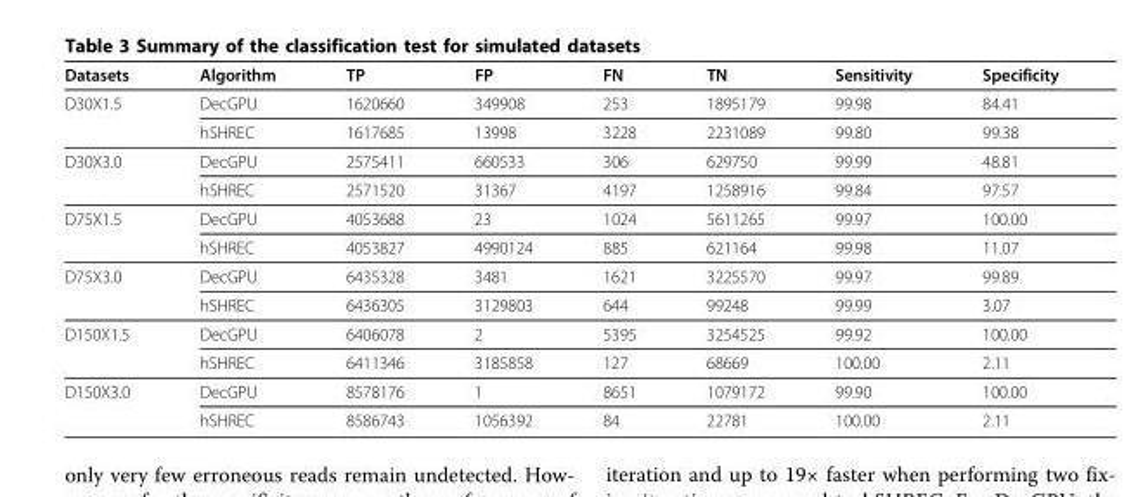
<table><thead><tr><td>Datasets</td><td>Algorithm</td><td>TP</td><td>FP</td><td>FN</td><td>TN</td><td>Sensitivity</td><td>Specificity</td></tr></thead><tbody><tr><td rowspan="2">D30X1.5</td><td>DecGPU</td><td>1620660</td><td>349908</td><td>253</td><td>1895179</td><td>99.98</td><td>84.41</td></tr><tr><td>hSHREC</td><td>1617685</td><td>13998</td><td>3228</td><td>2231089</td><td>99.80</td><td>99.38</td></tr><tr><td rowspan="2">D30X3.0</td><td>DecGPU</td><td>2575411</td><td>660533</td><td>306</td><td>629750</td><td>99.99</td><td>48.81</td></tr><tr><td>hSHREC</td><td>2571520</td><td>31367</td><td>4197</td><td>1258916</td><td>99.84</td><td>97.57</td></tr><tr><td rowspan="2">D75X1.5</td><td>DecGPU</td><td>4053688</td><td>23</td><td>1024</td><td>5611265</td><td>99.97</td><td>100.00</td></tr><tr><td>hSHREC</td><td>4053827</td><td>4990124</td><td>885</td><td>621164</td><td>99.98</td><td>11.07</td></tr><tr><td rowspan="2">D75X3.0</td><td>DecGPU</td><td>6435328</td><td>3481</td><td>1621</td><td>3225570</td><td>99.97</td><td>99.89</td></tr><tr><td>hSHREC</td><td>6436305</td><td>3129803</td><td>644</td><td>99248</td><td>99.99</td><td>3.07</td></tr><tr><td rowspan="2">D150X1.5</td><td>DecGPU</td><td>6406078</td><td>2</td><td>5395</td><td>3254525</td><td>99.92</td><td>100.00</td></tr><tr><td>hSHREC</td><td>6411346</td><td>3185858</td><td>127</td><td>68669</td><td>100.00</td><td>2.11</td></tr><tr><td rowspan="2">D150X3.0</td><td>DecGPU</td><td>8578176</td><td>1</td><td>8651</td><td>1079172</td><td>99.90</td><td>100.00</td></tr><tr><td>hSHREC</td><td>8586743</td><td>1056392</td><td>84</td><td>22781</td><td>100.00</td><td>2.11</td></tr></tbody></table>